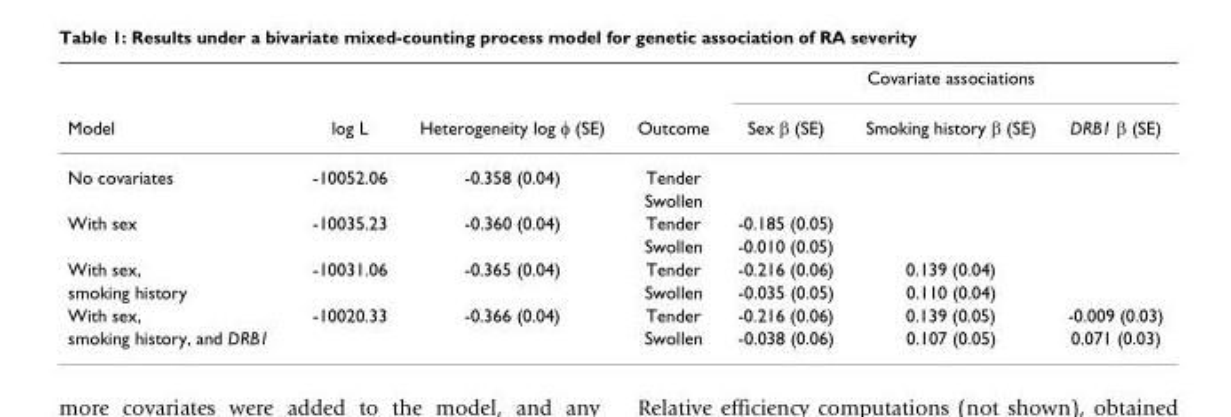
<table><thead><tr><td rowspan="2">Model</td><td rowspan="2">log L</td><td rowspan="2">Heterogeneity log φ (SE)</td><td rowspan="2">Outcome</td><td colspan="3">Covariate associations</td></tr><tr><td>Sex β (SE)</td><td>Smoking history β (SE)</td><td>DRB1 β (SE)</td></tr></thead><tbody><tr><td rowspan="2">No covariates</td><td>-10052.06</td><td>-0.358 (0.04)</td><td>Tender</td><td></td><td></td><td></td></tr><tr><td></td><td></td><td>Swollen</td><td></td><td></td><td></td></tr><tr><td rowspan="2">With sex</td><td>-10035.23</td><td>-0.360 (0.04)</td><td>Tender</td><td>-0.185 (0.05)</td><td></td><td></td></tr><tr><td></td><td></td><td>Swollen</td><td>-0.010 (0.05)</td><td></td><td></td></tr><tr><td>With sex,</td><td>-10031.06</td><td>-0.365 (0.04)</td><td>Tender</td><td>-0.216 (0.06)</td><td>0.139 (0.04)</td><td></td></tr><tr><td>smoking history</td><td></td><td></td><td>Swollen</td><td>-0.035 (0.05)</td><td>0.110 (0.04)</td><td></td></tr><tr><td>With sex,</td><td>-10020.33</td><td>-0.366 (0.04)</td><td>Tender</td><td>-0.216 (0.06)</td><td>0.139 (0.05)</td><td>-0.009 (0.03)</td></tr><tr><td>smoking history, and DRB1</td><td></td><td></td><td>Swollen</td><td>-0.038 (0.06)</td><td>0.107 (0.05)</td><td>0.071 (0.03)</td></tr></tbody></table>